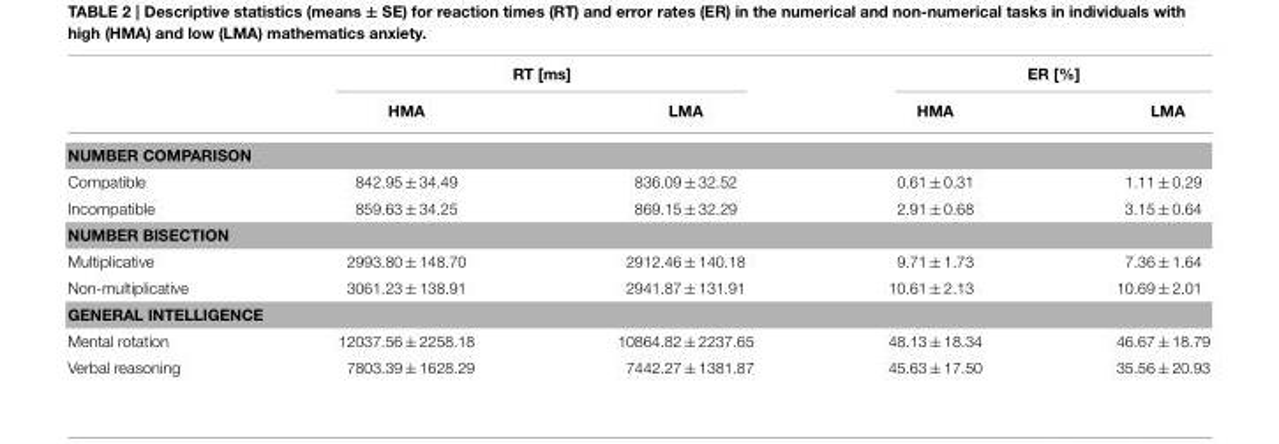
<table><thead><tr><td rowspan="2"></td><td colspan="2">RT [ms]</td><td colspan="2">ER [%]</td></tr><tr><td>HMA</td><td>LMA</td><td>HMA</td><td>LMA</td></tr></thead><tbody><tr><td colspan="5">NUMBER COMPARISON</td></tr><tr><td>Compatible</td><td>842.95 ± 34.49</td><td>836.09 ± 32.52</td><td>0.61 ± 0.31</td><td>1.11 ± 0.29</td></tr><tr><td>Incompatible</td><td>859.63 ± 34.25</td><td>869.15 ± 32.29</td><td>2.91 ± 0.68</td><td>3.15 ± 0.64</td></tr><tr><td colspan="5">NUMBER BISECTION</td></tr><tr><td>Multiplicative</td><td>2993.80 ± 148.70</td><td>2912.46 ± 140.18</td><td>9.71 ± 1.73</td><td>7.36 ± 1.64</td></tr><tr><td>Non-multiplicative</td><td>3061.23 ± 138.91</td><td>2941.87 ± 131.91</td><td>10.61 ± 2.13</td><td>10.69 ± 2.01</td></tr><tr><td colspan="5">GENERAL INTELLIGENCE</td></tr><tr><td>Mental rotation</td><td>12037.56 ± 2258.18</td><td>10864.82 ± 2237.65</td><td>48.13 ± 18.34</td><td>46.67 ± 18.79</td></tr><tr><td>Verbal reasoning</td><td>7803.39 ± 1628.29</td><td>7442.27 ± 1381.87</td><td>45.63 ± 17.50</td><td>35.56 ± 20.93</td></tr></tbody></table>